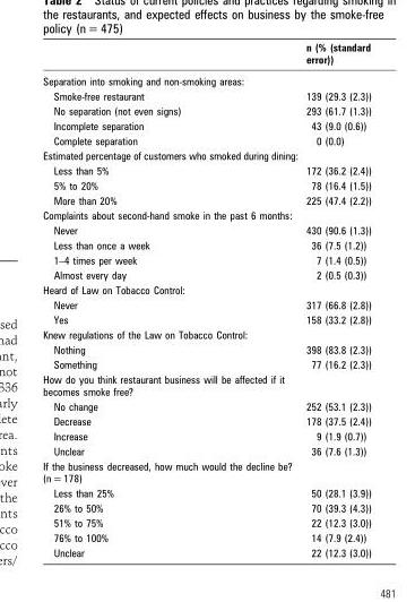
<table><thead><tr><td></td><td>n (% (standard error))</td></tr></thead><tbody><tr><td colspan="2">Separation into smoking and non-smoking areas:</td></tr><tr><td>Smoke-free restaurant</td><td>139 (29.3 (2.3))</td></tr><tr><td>No separation (not even signs)</td><td>293 (61.7 (1.3))</td></tr><tr><td>Incomplete separation</td><td>43 (9.0 (0.6))</td></tr><tr><td>Complete separation</td><td>0 (0.0)</td></tr><tr><td colspan="2">Estimated percentage of customers who smoked during dining:</td></tr><tr><td>Less than 5%</td><td>172 (36.2 (2.4))</td></tr><tr><td>5% to 20%</td><td>78 (16.4 (1.5))</td></tr><tr><td>More than 20%</td><td>225 (47.4 (2.2))</td></tr><tr><td colspan="2">Complaints about second-hand smoke in the past 6 months:</td></tr><tr><td>Never</td><td>430 (90.6 (1.3))</td></tr><tr><td>Less than once a week</td><td>36 (7.5 (1.2))</td></tr><tr><td>1–4 times per week</td><td>7 (1.4 (0.5))</td></tr><tr><td>Almost every day</td><td>2 (0.5 (0.3))</td></tr><tr><td colspan="2">Heard of Law on Tobacco Control:</td></tr><tr><td>Never</td><td>317 (66.8 (2.8))</td></tr><tr><td>Yes</td><td>158 (33.2 (2.8))</td></tr><tr><td colspan="2">Knew regulations of the Law on Tobacco Control:</td></tr><tr><td>Nothing</td><td>398 (83.8 (2.3))</td></tr><tr><td>Something</td><td>77 (16.2 (2.3))</td></tr><tr><td colspan="2">How do you think restaurant business will be affected if it becomes smoke free?</td></tr><tr><td>No change</td><td>252 (53.1 (2.3))</td></tr><tr><td>Decrease</td><td>178 (37.5 (2.4))</td></tr><tr><td>Increase</td><td>9 (1.9 (0.7))</td></tr><tr><td>Unclear</td><td>36 (7.6 (1.3))</td></tr><tr><td colspan="2">If the business decreased, how much would the decline be? (n = 178)</td></tr><tr><td>Less than 25%</td><td>50 (28.1 (3.9))</td></tr><tr><td>26% to 50%</td><td>70 (39.3 (4.3))</td></tr><tr><td>51% to 75%</td><td>22 (12.3 (3.0))</td></tr><tr><td>76% to 100%</td><td>14 (7.9 (2.4))</td></tr><tr><td>Unclear</td><td>22 (12.3 (3.0))</td></tr></tbody></table>